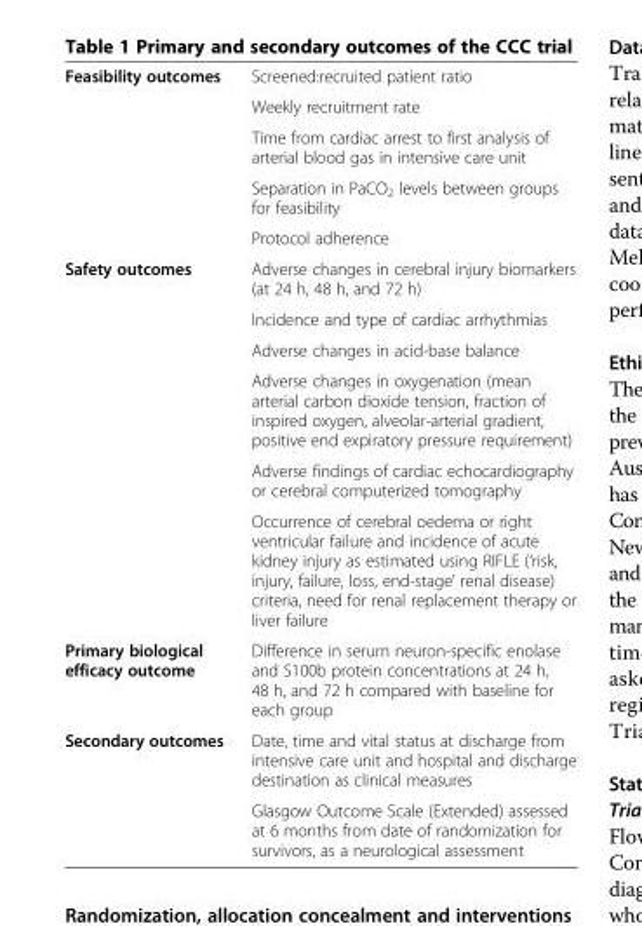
<table><tbody><tr><td rowspan="5">Feasibility outcomes</td><td>Screened:recruited patient ratio</td></tr><tr><td>Weekly recruitment rate</td></tr><tr><td>Time from cardiac arrest to first analysis of arterial blood gas in intensive care unit</td></tr><tr><td>Separation in PaCO<sub>2</sub> levels between groups for feasibility</td></tr><tr><td>Protocol adherence</td></tr><tr><td rowspan="6">Safety outcomes</td><td>Adverse changes in cerebral injury biomarkers (at 24 h, 48 h, and 72 h)</td></tr><tr><td>Incidence and type of cardiac arrhythmias</td></tr><tr><td>Adverse changes in acid-base balance</td></tr><tr><td>Adverse changes in oxygenation (mean arterial carbon dioxide tension, fraction of inspired oxygen, alveolar-arterial gradient, positive end expiratory pressure requirement)</td></tr><tr><td>Adverse findings of cardiac echocardiography or cerebral computerized tomography</td></tr><tr><td>Occurrence of cerebral oedema or right ventricular failure and incidence of acute kidney injury as estimated using RIFLE (‘risk, injury, failure, loss, end-stage’ renal disease) criteria, need for renal replacement therapy or liver failure</td></tr><tr><td>Primary biological efficacy outcome</td><td>Difference in serum neuron-specific enolase and S100b protein concentrations at 24 h, 48 h, and 72 h compared with baseline for each group</td></tr><tr><td rowspan="2">Secondary outcomes</td><td>Date, time and vital status at discharge from intensive care unit and hospital and discharge destination as clinical measures</td></tr><tr><td>Glasgow Outcome Scale (Extended) assessed at 6 months from date of randomization for survivors, as a neurological assessment</td></tr></tbody></table>